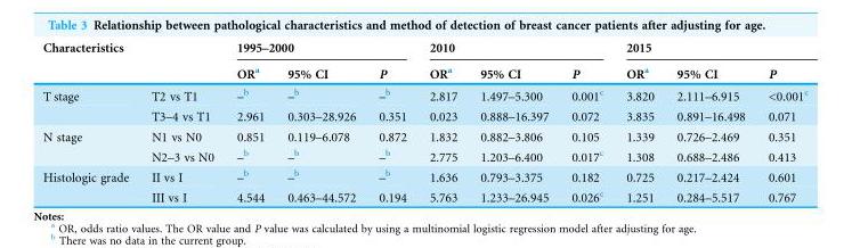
<table><thead><tr><td colspan="2">Characteristics</td><td colspan="3">1995–2000</td><td colspan="3">2010</td><td colspan="3">2015</td></tr><tr><td></td><td></td><td>OR<sup>a</sup></td><td>95% CI</td><td>P</td><td>OR<sup>a</sup></td><td>95% CI</td><td>P</td><td>OR<sup>a</sup></td><td>95% CI</td><td>P</td></tr></thead><tbody><tr><td rowspan="2">T stage</td><td>T2 vs T1</td><td>–<sup>b</sup></td><td>–<sup>b</sup></td><td>–<sup>b</sup></td><td>2.817</td><td>1.497–5.300</td><td>0.001<sup>c</sup></td><td>3.820</td><td>2.111–6.915</td><td>&lt;0.001<sup>c</sup></td></tr><tr><td>T3–4 vs T1</td><td>2.961</td><td>0.303–28.926</td><td>0.351</td><td>0.023</td><td>0.888–16.397</td><td>0.072</td><td>3.835</td><td>0.891–16.498</td><td>0.071</td></tr><tr><td rowspan="2">N stage</td><td>N1 vs N0</td><td>0.851</td><td>0.119–6.078</td><td>0.872</td><td>1.832</td><td>0.882–3.806</td><td>0.105</td><td>1.339</td><td>0.726–2.469</td><td>0.351</td></tr><tr><td>N2–3 vs N0</td><td>–<sup>b</sup></td><td>–<sup>b</sup></td><td>–<sup>b</sup></td><td>2.775</td><td>1.203–6.400</td><td>0.017<sup>c</sup></td><td>1.308</td><td>0.688–2.486</td><td>0.413</td></tr><tr><td rowspan="2">Histologic grade</td><td>II vs I</td><td>–<sup>b</sup></td><td>–<sup>b</sup></td><td>–<sup>b</sup></td><td>1.636</td><td>0.793–3.375</td><td>0.182</td><td>0.725</td><td>0.217–2.424</td><td>0.601</td></tr><tr><td>III vs I</td><td>4.544</td><td>0.463–44.572</td><td>0.194</td><td>5.763</td><td>1.233–26.945</td><td>0.026<sup>c</sup></td><td>1.251</td><td>0.284–5.517</td><td>0.767</td></tr></tbody></table>